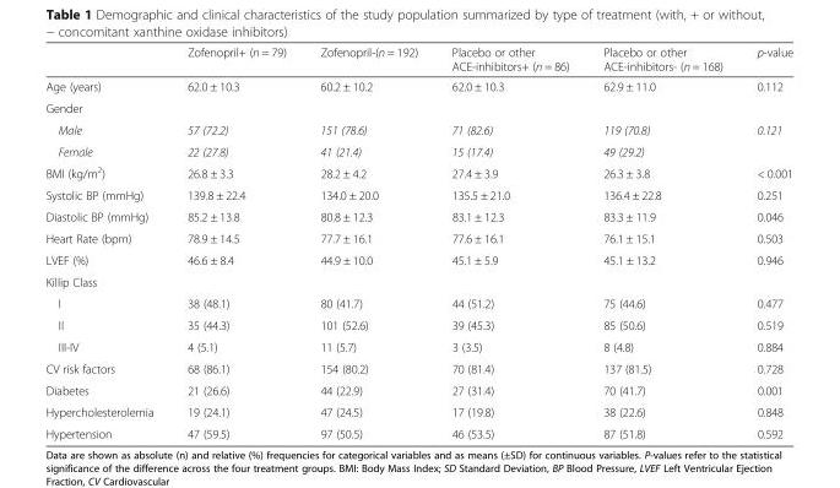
<table><thead><tr><td></td><td>Zofenopril+ (n = 79)</td><td>Zofenopril-(n = 192)</td><td>Placebo or other ACE-inhibitors+ (n = 86)</td><td>Placebo or other ACE-inhibitors- (n = 168)</td><td>p-value</td></tr></thead><tbody><tr><td>Age (years)</td><td>62.0 ± 10.3</td><td>60.2 ± 10.2</td><td>62.0 ± 10.3</td><td>62.9 ± 11.0</td><td>0.112</td></tr><tr><td colspan="6">Gender</td></tr><tr><td>Male</td><td>57 (72.2)</td><td>151 (78.6)</td><td>71 (82.6)</td><td>119 (70.8)</td><td rowspan="2">0.121</td></tr><tr><td>Female</td><td>22 (27.8)</td><td>41 (21.4)</td><td>15 (17.4)</td><td>49 (29.2)</td></tr><tr><td>BMI (kg/m<sup>2</sup>)</td><td>26.8 ± 3.3</td><td>28.2 ± 4.2</td><td>27.4 ± 3.9</td><td>26.3 ± 3.8</td><td>&lt; 0.001</td></tr><tr><td>Systolic BP (mmHg)</td><td>139.8 ± 22.4</td><td>134.0 ± 20.0</td><td>135.5 ± 21.0</td><td>136.4 ± 22.8</td><td>0.251</td></tr><tr><td>Diastolic BP (mmHg)</td><td>85.2 ± 13.8</td><td>80.8 ± 12.3</td><td>83.1 ± 12.3</td><td>83.3 ± 11.9</td><td>0.046</td></tr><tr><td>Heart Rate (bpm)</td><td>78.9 ± 14.5</td><td>77.7 ± 16.1</td><td>77.6 ± 16.1</td><td>76.1 ± 15.1</td><td>0.503</td></tr><tr><td>LVEF (%)</td><td>46.6 ± 8.4</td><td>44.9 ± 10.0</td><td>45.1 ± 5.9</td><td>45.1 ± 13.2</td><td>0.946</td></tr><tr><td colspan="6">Killip Class</td></tr><tr><td>I</td><td>38 (48.1)</td><td>80 (41.7)</td><td>44 (51.2)</td><td>75 (44.6)</td><td>0.477</td></tr><tr><td>II</td><td>35 (44.3)</td><td>101 (52.6)</td><td>39 (45.3)</td><td>85 (50.6)</td><td>0.519</td></tr><tr><td>III-IV</td><td>4 (5.1)</td><td>11 (5.7)</td><td>3 (3.5)</td><td>8 (4.8)</td><td>0.884</td></tr><tr><td>CV risk factors</td><td>68 (86.1)</td><td>154 (80.2)</td><td>70 (81.4)</td><td>137 (81.5)</td><td>0.728</td></tr><tr><td>Diabetes</td><td>21 (26.6)</td><td>44 (22.9)</td><td>27 (31.4)</td><td>70 (41.7)</td><td>0.001</td></tr><tr><td>Hypercholesterolemia</td><td>19 (24.1)</td><td>47 (24.5)</td><td>17 (19.8)</td><td>38 (22.6)</td><td>0.848</td></tr><tr><td>Hypertension</td><td>47 (59.5)</td><td>97 (50.5)</td><td>46 (53.5)</td><td>87 (51.8)</td><td>0.592</td></tr></tbody></table>